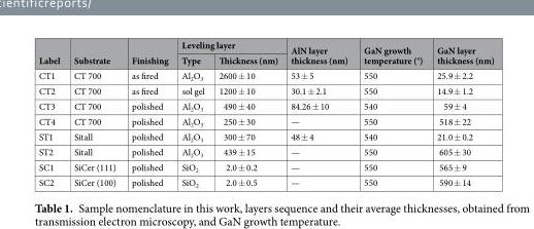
<table><thead><tr><td rowspan="2">Label</td><td rowspan="2">Substrate</td><td rowspan="2">Finishing</td><td colspan="2">Leveling layer</td><td rowspan="2">AlN layer thickness (nm)</td><td rowspan="2">GaN growth temperature (°)</td><td rowspan="2">GaN layer thickness (nm)</td></tr><tr><td>Type</td><td>Thickness (nm)</td></tr></thead><tbody><tr><td>CT1</td><td>CT 700</td><td>as fired</td><td>Al<sub>2</sub>O<sub>3</sub></td><td>2600 ± 10</td><td>53 ± 5</td><td>550</td><td>25.9 ± 2.2</td></tr><tr><td>CT2</td><td>CT 700</td><td>as fired</td><td>sol gel</td><td>1200 ± 10</td><td>30.1 ± 2.1</td><td>550</td><td>14.9 ± 1.2</td></tr><tr><td>CT3</td><td>CT 700</td><td>polished</td><td>Al<sub>2</sub>O<sub>3</sub></td><td>490 ± 40</td><td>84.26 ± 10</td><td>540</td><td>59 ± 4</td></tr><tr><td>CT4</td><td>CT 700</td><td>polished</td><td>Al<sub>2</sub>O<sub>3</sub></td><td>250 ± 30</td><td>—</td><td>550</td><td>518 ± 22</td></tr><tr><td>ST1</td><td>Sitall</td><td>polished</td><td>Al<sub>2</sub>O<sub>3</sub></td><td>300 ± 70</td><td>48 ± 4</td><td>540</td><td>21.0 ± 0.2</td></tr><tr><td>ST2</td><td>Sitall</td><td>polished</td><td>Al<sub>2</sub>O<sub>3</sub></td><td>439 ± 15</td><td>—</td><td>550</td><td>605 ± 30</td></tr><tr><td>SC1</td><td>SiCer (111)</td><td>polished</td><td>SiO<sub>2</sub></td><td>2.0 ± 0.2</td><td>—</td><td>550</td><td>565 ± 9</td></tr><tr><td>SC2</td><td>SiCer (100)</td><td>polished</td><td>SiO<sub>2</sub></td><td>2.0 ± 0.5</td><td>—</td><td>550</td><td>590 ± 14</td></tr></tbody></table>